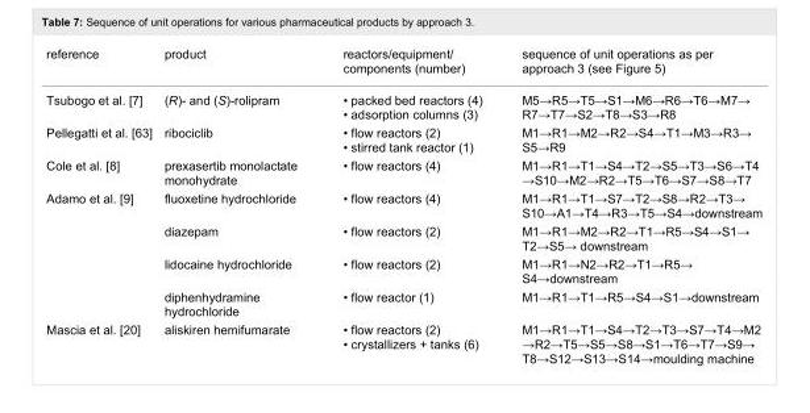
<table><tbody><tr><td>reference</td><td>product</td><td>reactors/equipment/ components (number)</td><td>sequence of unit operations as per approach 3 (see Figure 5)</td></tr><tr><td>Tsubogo et al. [7]</td><td>(R)- and (S)-rolipram</td><td>• packed bed reactors (4) • adsorption columns (3)</td><td>M5→R5→T5→S1→M6→R6→T6→M7→ R7→T7→S2→T8→S3→R8</td></tr><tr><td>Pellegatti et al. [63]</td><td>ribociclib</td><td>• flow reactors (2) • stirred tank reactor (1)</td><td>M1→R1→M2→R2→S4→T1→M3→R3→ S5→R9</td></tr><tr><td>Cole et al. [8]</td><td>prexasertib monolactate monohydrate</td><td>• flow reactors (4)</td><td>M1→R1→T1→S4→T2→S5→T3→S6→T4 →S10→M2→R2→T5→T6→S7→S8→T7</td></tr><tr><td rowspan="4">Adamo et al. [9]</td><td>fluoxetine hydrochloride</td><td>• flow reactors (4)</td><td>M1→R1→T1→S7→T2→S8→R2→T3→ S10→A1→T4→R3→T5→S4→downstream</td></tr><tr><td>diazepam</td><td>• flow reactors (2)</td><td>M1→R1→M2→R2→T1→R5→S4→S1→ T2→S5→ downstream</td></tr><tr><td>lidocaine hydrochloride</td><td>• flow reactors (2)</td><td>M1→R1→N2→R2→T1→R5→ S4→downstream</td></tr><tr><td>diphenhydramine hydrochloride</td><td>• flow reactor (1)</td><td>M1→R1→T1→R5→S4→S1→downstream</td></tr><tr><td>Mascia et al. [20]</td><td>aliskiren hemifumarate</td><td>• flow reactors (2) • crystallizers + tanks (6)</td><td>M1→R1→T1→S4→T2→T3→S7→T4→M2 →R2→T5→S5→S8→S1→T6→T7→S9→ T8→S12→S13→S14→moulding machine</td></tr></tbody></table>